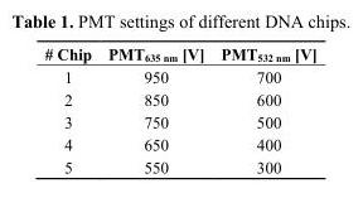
<table><thead><tr><td># Chip</td><td>PMT<sub>635 nm</sub> [V]</td><td>PMT<sub>532 nm</sub> [V]</td></tr></thead><tbody><tr><td>1</td><td>950</td><td>700</td></tr><tr><td>2</td><td>850</td><td>600</td></tr><tr><td>3</td><td>750</td><td>500</td></tr><tr><td>4</td><td>650</td><td>400</td></tr><tr><td>5</td><td>550</td><td>300</td></tr></tbody></table>